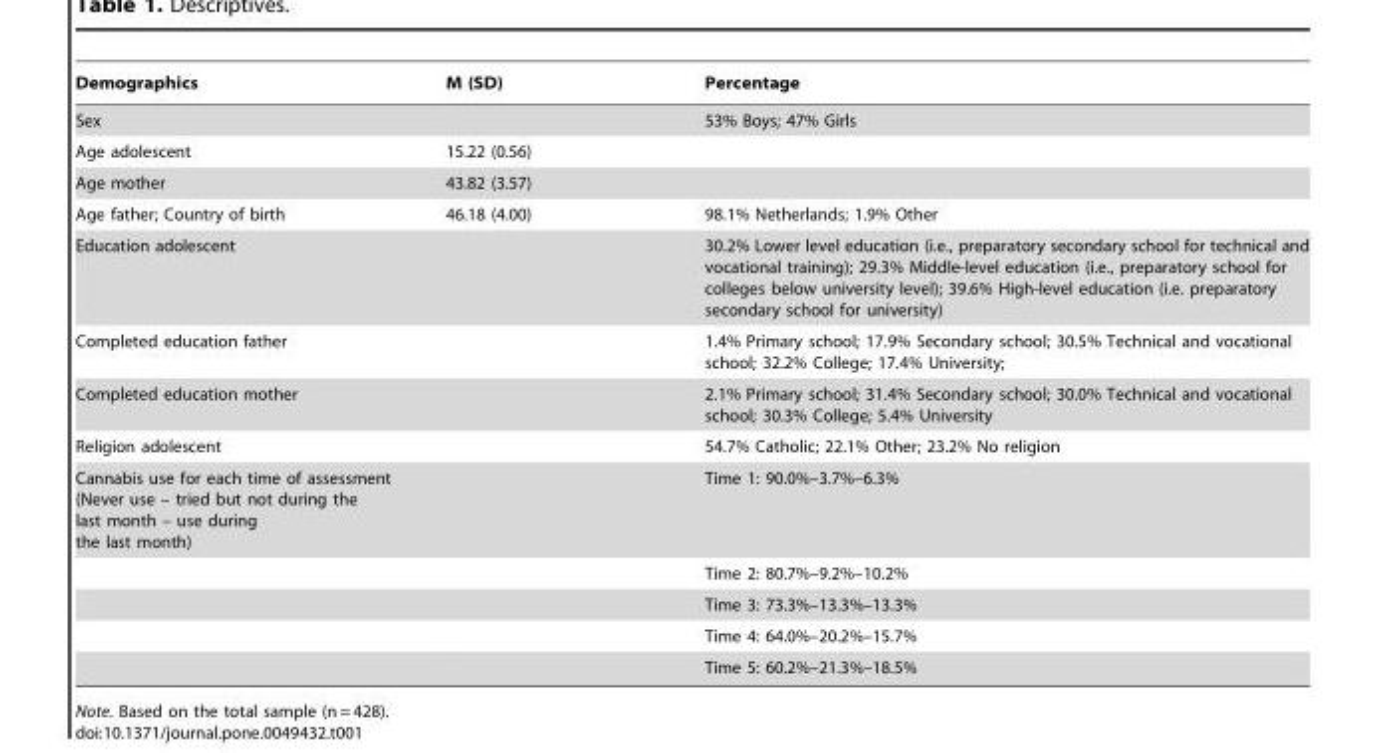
<table><thead><tr><td>Demographics</td><td>M (SD)</td><td>Percentage</td></tr></thead><tbody><tr><td>Sex</td><td></td><td>53% Boys; 47% Girls</td></tr><tr><td>Age adolescent</td><td>15.22 (0.56)</td><td></td></tr><tr><td>Age mother</td><td>43.82 (3.57)</td><td></td></tr><tr><td>Age father; Country of birth</td><td>46.18 (4.00)</td><td>98.1% Netherlands; 1.9% Other</td></tr><tr><td>Education adolescent</td><td></td><td>30.2% Lower level education (i.e., preparatory secondary school for technical and vocational training); 29.3% Middle-level education (i.e., preparatory school for colleges below university level); 39.6% High-level education (i.e. preparatory secondary school for university)</td></tr><tr><td>Completed education father</td><td></td><td>1.4% Primary school; 17.9% Secondary school; 30.5% Technical and vocational school; 32.2% College; 17.4% University;</td></tr><tr><td>Completed education mother</td><td></td><td>2.1% Primary school; 31.4% Secondary school; 30.0% Technical and vocational school; 30.3% College; 5.4% University</td></tr><tr><td>Religion adolescent</td><td></td><td>54.7% Catholic; 22.1% Other; 23.2% No religion</td></tr><tr><td rowspan="5">Cannabis use for each time of assessment (Never use – tried but not during the last month – use during the last month)</td><td></td><td>Time 1: 90.0%–3.7%–6.3%</td></tr><tr><td></td><td>Time 2: 80.7%–9.2%–10.2%</td></tr><tr><td></td><td>Time 3: 73.3%–13.3%–13.3%</td></tr><tr><td></td><td>Time 4: 64.0%–20.2%–15.7%</td></tr><tr><td></td><td>Time 5: 60.2%–21.3%–18.5%</td></tr></tbody></table>